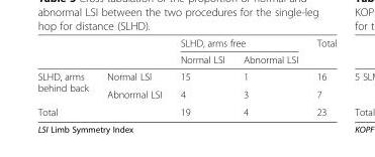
<table><thead><tr><td rowspan="2"></td><td rowspan="2"></td><td colspan="2">SLHD, arms free</td><td rowspan="2">Total</td></tr><tr><td>Normal LSI</td><td>Abnormal LSI</td></tr></thead><tbody><tr><td rowspan="2">SLHD, arms behind back</td><td>Normal LSI</td><td>15</td><td>1</td><td>16</td></tr><tr><td>Abnormal LSI</td><td>4</td><td>3</td><td>7</td></tr><tr><td>Total</td><td></td><td>19</td><td>4</td><td>23</td></tr></tbody></table>